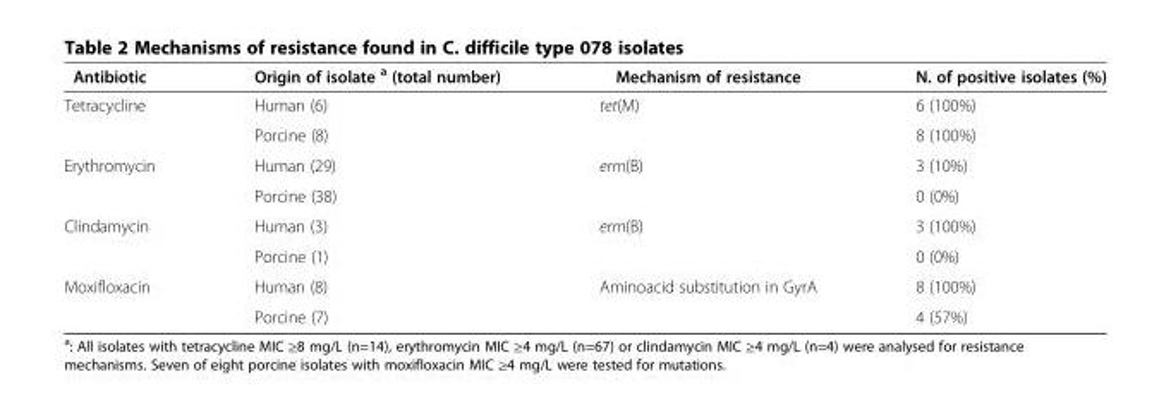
<table><thead><tr><td>Antibiotic</td><td>Origin of isolate <sup>a</sup> (total number)</td><td>Mechanism of resistance</td><td>N. of positive isolates (%)</td></tr></thead><tbody><tr><td rowspan="2">Tetracycline</td><td>Human (6)</td><td rowspan="2">tet(M)</td><td>6 (100%)</td></tr><tr><td>Porcine (8)</td><td>8 (100%)</td></tr><tr><td rowspan="2">Erythromycin</td><td>Human (29)</td><td rowspan="2">erm(B)</td><td>3 (10%)</td></tr><tr><td>Porcine (38)</td><td>0 (0%)</td></tr><tr><td rowspan="2">Clindamycin</td><td>Human (3)</td><td rowspan="2">erm(B)</td><td>3 (100%)</td></tr><tr><td>Porcine (1)</td><td>0 (0%)</td></tr><tr><td rowspan="2">Moxifloxacin</td><td>Human (8)</td><td rowspan="2">Aminoacid substitution in GyrA</td><td>8 (100%)</td></tr><tr><td>Porcine (7)</td><td>4 (57%)</td></tr></tbody></table>